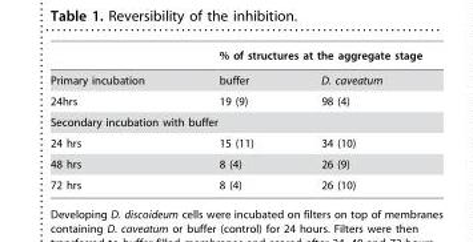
<table><thead><tr><td rowspan="2">Primary incubation</td><td colspan="2">% of structures at the aggregate stage</td></tr><tr><td>buffer</td><td>D. caveatum</td></tr></thead><tbody><tr><td>24hrs</td><td>19 (9)</td><td>98 (4)</td></tr><tr><td colspan="3">Secondary incubation with buffer</td></tr><tr><td>24 hrs</td><td>15 (11)</td><td>34 (10)</td></tr><tr><td>48 hrs</td><td>8 (4)</td><td>26 (9)</td></tr><tr><td>72 hrs</td><td>8 (4)</td><td>26 (10)</td></tr></tbody></table>